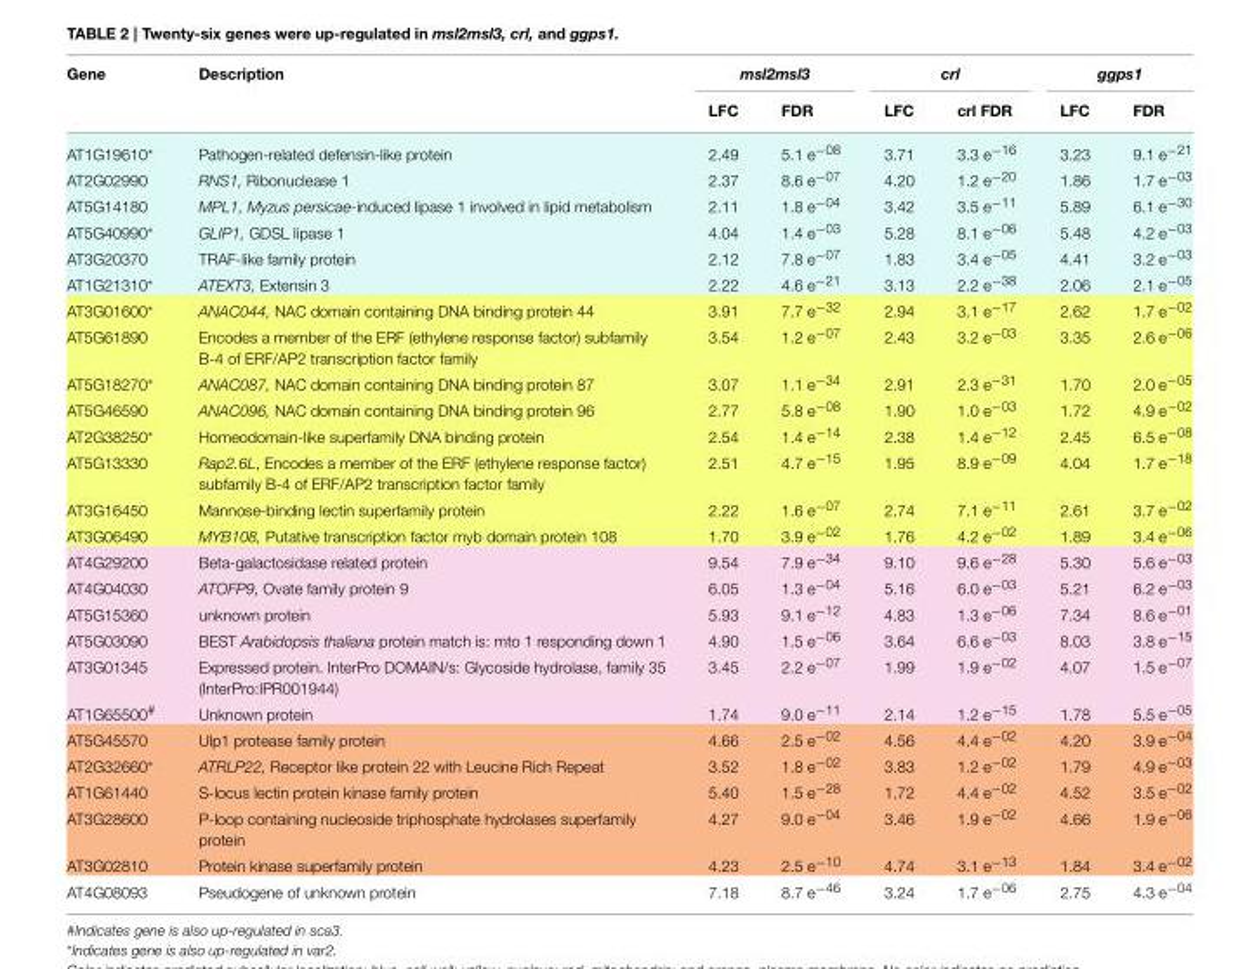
<table><thead><tr><td rowspan="2">Gene</td><td rowspan="2">Description</td><td colspan="2">msl2msl3</td><td colspan="2">crl</td><td colspan="2">ggps1</td></tr><tr><td>LFC</td><td>FDR</td><td>LFC</td><td>crl FDR</td><td>LFC</td><td>FDR</td></tr></thead><tbody><tr><td>AT1G19610*</td><td>Pathogen-related defensin-like protein</td><td>2.49</td><td>5.1 e<sup>−08</sup></td><td>3.71</td><td>3.3 e<sup>−16</sup></td><td>3.23</td><td>9.1 e<sup>−21</sup></td></tr><tr><td>AT2G02990</td><td>RNS1, Ribonuclease 1</td><td>2.37</td><td>8.6 e<sup>−07</sup></td><td>4.20</td><td>1.2 e<sup>−20</sup></td><td>1.86</td><td>1.7 e<sup>−03</sup></td></tr><tr><td>AT5G14180</td><td>MPL1, Myzus persicae-induced lipase 1 involved in lipid metabolism</td><td>2.11</td><td>1.8 e<sup>−04</sup></td><td>3.42</td><td>3.5 e<sup>−11</sup></td><td>5.89</td><td>6.1 e<sup>−30</sup></td></tr><tr><td>AT5G40990*</td><td>GLIP1, GDSL lipase 1</td><td>4.04</td><td>1.4 e<sup>−03</sup></td><td>5.28</td><td>8.1 e<sup>−06</sup></td><td>5.48</td><td>4.2 e<sup>−03</sup></td></tr><tr><td>AT3G20370</td><td>TRAF-like family protein</td><td>2.12</td><td>7.8 e<sup>−07</sup></td><td>1.83</td><td>3.4 e<sup>−05</sup></td><td>4.41</td><td>3.2 e<sup>−03</sup></td></tr><tr><td>AT1G21310*</td><td>ATEXT3, Extensin 3</td><td>2.22</td><td>4.6 e<sup>−21</sup></td><td>3.13</td><td>2.2 e<sup>−38</sup></td><td>2.06</td><td>2.1 e<sup>−05</sup></td></tr><tr><td>AT3G01600*</td><td>ANAC044, NAC domain containing DNA binding protein 44</td><td>3.91</td><td>7.7 e<sup>−32</sup></td><td>2.94</td><td>3.1 e<sup>−17</sup></td><td>2.62</td><td>1.7 e<sup>−02</sup></td></tr><tr><td>AT5G61890</td><td>Encodes a member of the ERF (ethylene response factor) subfamily B-4 of ERF/AP2 transcription factor family</td><td>3.54</td><td>1.2 e<sup>−07</sup></td><td>2.43</td><td>3.2 e<sup>−03</sup></td><td>3.35</td><td>2.6 e<sup>−06</sup></td></tr><tr><td>AT5G18270*</td><td>ANAC087, NAC domain containing DNA binding protein 87</td><td>3.07</td><td>1.1 e<sup>−34</sup></td><td>2.91</td><td>2.3 e<sup>−31</sup></td><td>1.70</td><td>2.0 e<sup>−05</sup></td></tr><tr><td>AT5G46590</td><td>ANAC096, NAC domain containing DNA binding protein 96</td><td>2.77</td><td>5.8 e<sup>−08</sup></td><td>1.90</td><td>1.0 e<sup>−03</sup></td><td>1.72</td><td>4.9 e<sup>−02</sup></td></tr><tr><td>AT2G38250*</td><td>Homeodomain-like superfamily DNA binding protein</td><td>2.54</td><td>1.4 e<sup>−14</sup></td><td>2.38</td><td>1.4 e<sup>−12</sup></td><td>2.45</td><td>6.5 e<sup>−08</sup></td></tr><tr><td>AT5G13330</td><td>Rap2.6L, Encodes a member of the ERF (ethylene response factor) subfamily B-4 of ERF/AP2 transcription factor family</td><td>2.51</td><td>4.7 e<sup>−15</sup></td><td>1.95</td><td>8.9 e<sup>−09</sup></td><td>4.04</td><td>1.7 e<sup>−18</sup></td></tr><tr><td>AT3G16450</td><td>Mannose-binding lectin superfamily protein</td><td>2.22</td><td>1.6 e<sup>−07</sup></td><td>2.74</td><td>7.1 e<sup>−11</sup></td><td>2.61</td><td>3.7 e<sup>−02</sup></td></tr><tr><td>AT3G06490</td><td>MYB108, Putative transcription factor myb domain protein 108</td><td>1.70</td><td>3.9 e<sup>−02</sup></td><td>1.76</td><td>4.2 e<sup>−02</sup></td><td>1.89</td><td>3.4 e<sup>−06</sup></td></tr><tr><td>AT4G29200</td><td>Beta-galactosidase related protein</td><td>9.54</td><td>7.9 e<sup>−34</sup></td><td>9.10</td><td>9.6 e<sup>−28</sup></td><td>5.30</td><td>5.6 e<sup>−03</sup></td></tr><tr><td>AT4G04030</td><td>ATOFP9, Ovate family protein 9</td><td>6.05</td><td>1.3 e<sup>−04</sup></td><td>5.16</td><td>6.0 e<sup>−03</sup></td><td>5.21</td><td>6.2 e<sup>−03</sup></td></tr><tr><td>AT5G15360</td><td>unknown protein</td><td>5.93</td><td>9.1 e<sup>−12</sup></td><td>4.83</td><td>1.3 e<sup>−06</sup></td><td>7.34</td><td>8.6 e<sup>−01</sup></td></tr><tr><td>AT5G03090</td><td>BEST Arabidopsis thaliana protein match is: mto 1 responding down 1</td><td>4.90</td><td>1.5 e<sup>−06</sup></td><td>3.64</td><td>6.6 e<sup>−03</sup></td><td>8.03</td><td>3.8 e<sup>−15</sup></td></tr><tr><td>AT3G01345</td><td>Expressed protein. InterPro DOMAIN/s: Glycoside hydrolase, family 35 (InterPro:IPR001944)</td><td>3.45</td><td>2.2 e<sup>−07</sup></td><td>1.99</td><td>1.9 e<sup>−02</sup></td><td>4.07</td><td>1.5 e<sup>−07</sup></td></tr><tr><td>AT1G65500<sup>#</sup></td><td>Unknown protein</td><td>1.74</td><td>9.0 e<sup>−11</sup></td><td>2.14</td><td>1.2 e<sup>−15</sup></td><td>1.78</td><td>5.5 e<sup>−05</sup></td></tr><tr><td>AT5G45570</td><td>Ulp1 protease family protein</td><td>4.66</td><td>2.5 e<sup>−02</sup></td><td>4.56</td><td>4.4 e<sup>−02</sup></td><td>4.20</td><td>3.9 e<sup>−04</sup></td></tr><tr><td>AT2G32660*</td><td>ATRLP22, Receptor like protein 22 with Leucine Rich Repeat</td><td>3.52</td><td>1.8 e<sup>−02</sup></td><td>3.83</td><td>1.2 e<sup>−02</sup></td><td>1.79</td><td>4.9 e<sup>−03</sup></td></tr><tr><td>AT1G61440</td><td>S-locus lectin protein kinase family protein</td><td>5.40</td><td>1.5 e<sup>−28</sup></td><td>1.72</td><td>4.4 e<sup>−02</sup></td><td>4.52</td><td>3.5 e<sup>−02</sup></td></tr><tr><td>AT3G28600</td><td>P-loop containing nucleoside triphosphate hydrolases superfamily protein</td><td>4.27</td><td>9.0 e<sup>−04</sup></td><td>3.46</td><td>1.9 e<sup>−02</sup></td><td>4.66</td><td>1.9 e<sup>−06</sup></td></tr><tr><td>AT3G02810</td><td>Protein kinase superfamily protein</td><td>4.23</td><td>2.5 e<sup>−10</sup></td><td>4.74</td><td>3.1 e<sup>−13</sup></td><td>1.84</td><td>3.4 e<sup>−02</sup></td></tr><tr><td>AT4G08093</td><td>Pseudogene of unknown protein</td><td>7.18</td><td>8.7 e<sup>−46</sup></td><td>3.24</td><td>1.7 e<sup>−06</sup></td><td>2.75</td><td>4.3 e<sup>−04</sup></td></tr></tbody></table>